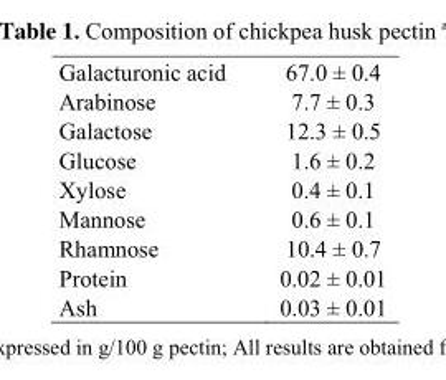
<table><tbody><tr><td>Galacturonic acid</td><td>67.0 ± 0.4</td></tr><tr><td>Arabinose</td><td>7.7 ± 0.3</td></tr><tr><td>Galactose</td><td>12.3 ± 0.5</td></tr><tr><td>Glucose</td><td>1.6 ± 0.2</td></tr><tr><td>Xylose</td><td>0.4 ± 0.1</td></tr><tr><td>Mannose</td><td>0.6 ± 0.1</td></tr><tr><td>Rhamnose</td><td>10.4 ± 0.7</td></tr><tr><td>Protein</td><td>0.02 ± 0.01</td></tr><tr><td>Ash</td><td>0.03 ± 0.01</td></tr></tbody></table>